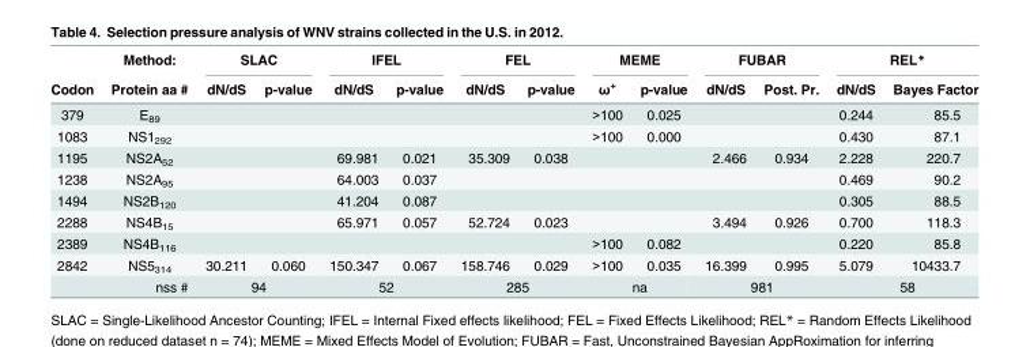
<table><thead><tr><td rowspan="2">Codon</td><td rowspan="2">Method: Protein aa #</td><td colspan="2">SLAC</td><td colspan="2">IFEL</td><td colspan="2">FEL</td><td colspan="2">MEME</td><td colspan="2">FUBAR</td><td colspan="2">REL*</td></tr><tr><td>dN/dS</td><td>p-value</td><td>dN/dS</td><td>p-value</td><td>dN/dS</td><td>p-value</td><td>ω<sup>+</sup></td><td>p-value</td><td>dN/dS</td><td>Post. Pr.</td><td>dN/dS</td><td>Bayes Factor</td></tr></thead><tbody><tr><td>379</td><td>E<sub>89</sub></td><td></td><td></td><td></td><td></td><td></td><td></td><td>&gt;100</td><td>0.025</td><td></td><td></td><td>0.244</td><td>85.5</td></tr><tr><td>1083</td><td>NS1<sub>292</sub></td><td></td><td></td><td></td><td></td><td></td><td></td><td>&gt;100</td><td>0.000</td><td></td><td></td><td>0.430</td><td>87.1</td></tr><tr><td>1195</td><td>NS2A<sub>52</sub></td><td></td><td></td><td>69.981</td><td>0.021</td><td>35.309</td><td>0.038</td><td></td><td></td><td>2.466</td><td>0.934</td><td>2.228</td><td>220.7</td></tr><tr><td>1238</td><td>NS2A<sub>95</sub></td><td></td><td></td><td>64.003</td><td>0.037</td><td></td><td></td><td></td><td></td><td></td><td></td><td>0.469</td><td>90.2</td></tr><tr><td>1494</td><td>NS2B<sub>120</sub></td><td></td><td></td><td>41.204</td><td>0.087</td><td></td><td></td><td></td><td></td><td></td><td></td><td>0.305</td><td>88.5</td></tr><tr><td>2288</td><td>NS4B<sub>15</sub></td><td></td><td></td><td>65.971</td><td>0.057</td><td>52.724</td><td>0.023</td><td></td><td></td><td>3.494</td><td>0.926</td><td>0.700</td><td>118.3</td></tr><tr><td>2389</td><td>NS4B<sub>116</sub></td><td></td><td></td><td></td><td></td><td></td><td></td><td>&gt;100</td><td>0.082</td><td></td><td></td><td>0.220</td><td>85.8</td></tr><tr><td rowspan="2">2842</td><td>NS5<sub>314</sub></td><td>30.211</td><td>0.060</td><td>150.347</td><td>0.067</td><td>158.746</td><td>0.029</td><td>&gt;100</td><td>0.035</td><td>16.399</td><td>0.995</td><td>5.079</td><td>10433.7</td></tr><tr><td>nss #</td><td colspan="2">94</td><td colspan="2">52</td><td colspan="2">285</td><td colspan="2">na</td><td colspan="2">981</td><td colspan="2">58</td></tr></tbody></table>